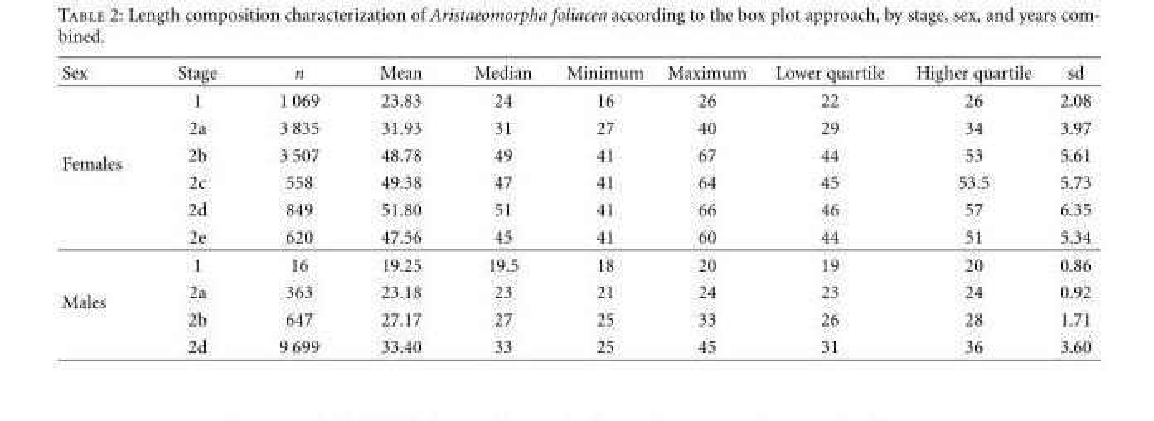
<table><thead><tr><td>Sex</td><td>Stage</td><td>n</td><td>Mean</td><td>Median</td><td>Minimum</td><td>Maximum</td><td>Lower quartile</td><td>Higher quartile</td><td>sd</td></tr></thead><tbody><tr><td rowspan="6">Females</td><td>1</td><td>1 069</td><td>23.83</td><td>24</td><td>16</td><td>26</td><td>22</td><td>26</td><td>2.08</td></tr><tr><td>2a</td><td>3 835</td><td>31.93</td><td>31</td><td>27</td><td>40</td><td>29</td><td>34</td><td>3.97</td></tr><tr><td>2b</td><td>3 507</td><td>48.78</td><td>49</td><td>41</td><td>67</td><td>44</td><td>53</td><td>5.61</td></tr><tr><td>2c</td><td>558</td><td>49.38</td><td>47</td><td>41</td><td>64</td><td>45</td><td>53.5</td><td>5.73</td></tr><tr><td>2d</td><td>849</td><td>51.80</td><td>51</td><td>41</td><td>66</td><td>46</td><td>57</td><td>6.35</td></tr><tr><td>2e</td><td>620</td><td>47.56</td><td>45</td><td>41</td><td>60</td><td>44</td><td>51</td><td>5.34</td></tr><tr><td rowspan="4">Males</td><td>1</td><td>16</td><td>19.25</td><td>19.5</td><td>18</td><td>20</td><td>19</td><td>20</td><td>0.86</td></tr><tr><td>2a</td><td>363</td><td>23.18</td><td>23</td><td>21</td><td>24</td><td>23</td><td>24</td><td>0.92</td></tr><tr><td>2b</td><td>647</td><td>27.17</td><td>27</td><td>25</td><td>33</td><td>26</td><td>28</td><td>1.71</td></tr><tr><td>2d</td><td>9 699</td><td>33.40</td><td>33</td><td>25</td><td>45</td><td>31</td><td>36</td><td>3.60</td></tr></tbody></table>